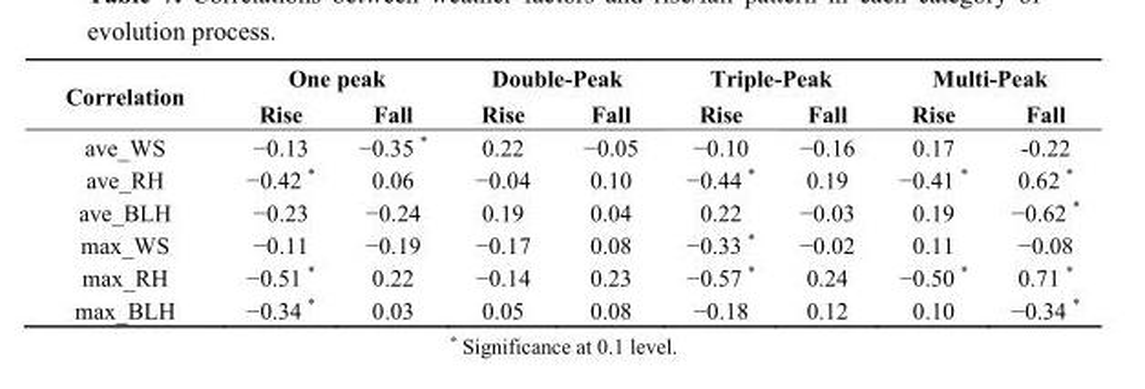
<table><thead><tr><td rowspan="2">Correlation</td><td colspan="2">One peak</td><td colspan="2">Double-Peak</td><td colspan="2">Triple-Peak</td><td colspan="2">Multi-Peak</td></tr><tr><td>Rise</td><td>Fall</td><td>Rise</td><td>Fall</td><td>Rise</td><td>Fall</td><td>Rise</td><td>Fall</td></tr></thead><tbody><tr><td>ave_WS</td><td>−0.13</td><td>−0.35 *</td><td>0.22</td><td>−0.05</td><td>−0.10</td><td>−0.16</td><td>0.17</td><td>-0.22</td></tr><tr><td>ave_RH</td><td>−0.42 *</td><td>0.06</td><td>−0.04</td><td>0.10</td><td>−0.44 *</td><td>0.19</td><td>−0.41 *</td><td>0.62 *</td></tr><tr><td>ave_BLH</td><td>−0.23</td><td>−0.24</td><td>0.19</td><td>0.04</td><td>0.22</td><td>−0.03</td><td>0.19</td><td>−0.62 *</td></tr><tr><td>max_WS</td><td>−0.11</td><td>−0.19</td><td>−0.17</td><td>0.08</td><td>−0.33 *</td><td>−0.02</td><td>0.11</td><td>−0.08</td></tr><tr><td>max_RH</td><td>−0.51 *</td><td>0.22</td><td>−0.14</td><td>0.23</td><td>−0.57 *</td><td>0.24</td><td>−0.50 *</td><td>0.71 *</td></tr><tr><td>max_BLH</td><td>−0.34 *</td><td>0.03</td><td>0.05</td><td>0.08</td><td>−0.18</td><td>0.12</td><td>0.10</td><td>−0.34 *</td></tr></tbody></table>